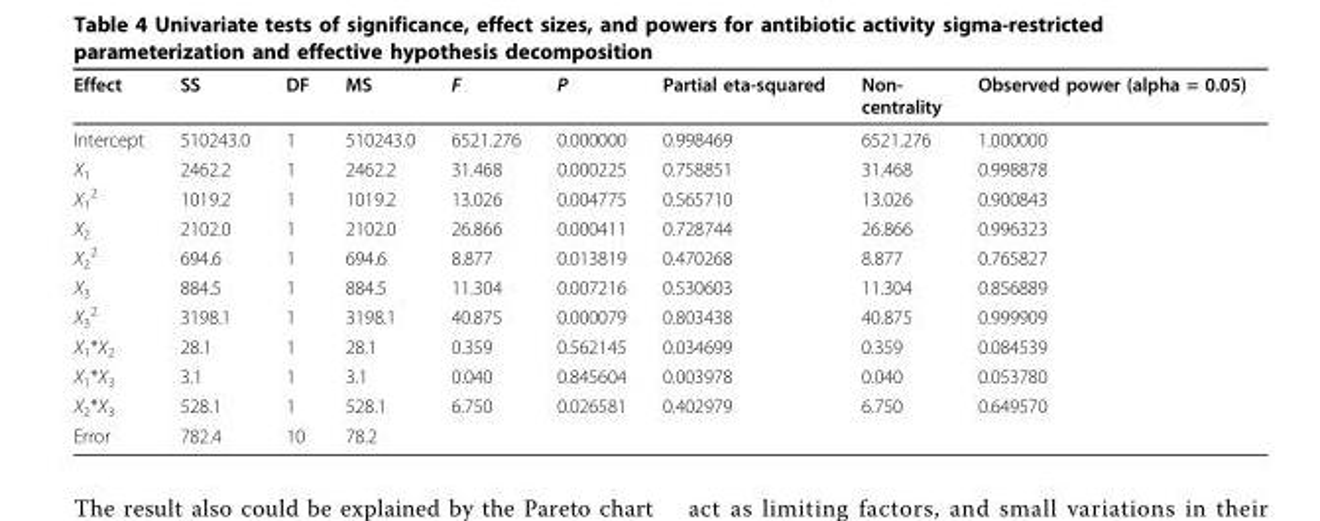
<table><thead><tr><td>Effect</td><td>SS</td><td>DF</td><td>MS</td><td>F</td><td>P</td><td>Partial eta-squared</td><td>Non- centrality</td><td>Observed power (alpha = 0.05)</td></tr></thead><tbody><tr><td>Intercept</td><td>510243.0</td><td>1</td><td>510243.0</td><td>6521.276</td><td>0.000000</td><td>0.998469</td><td>6521.276</td><td>1.000000</td></tr><tr><td>X<sub>1</sub></td><td>2462.2</td><td>1</td><td>2462.2</td><td>31.468</td><td>0.000225</td><td>0.758851</td><td>31.468</td><td>0.998878</td></tr><tr><td>X<sub>1</sub> <sup>2</sup></td><td>1019.2</td><td>1</td><td>1019.2</td><td>13.026</td><td>0.004775</td><td>0.565710</td><td>13.026</td><td>0.900843</td></tr><tr><td>X<sub>2</sub></td><td>2102.0</td><td>1</td><td>2102.0</td><td>26.866</td><td>0.000411</td><td>0.728744</td><td>26.866</td><td>0.996323</td></tr><tr><td>X<sub>2</sub> <sup>2</sup></td><td>694.6</td><td>1</td><td>694.6</td><td>8.877</td><td>0.013819</td><td>0.470268</td><td>8.877</td><td>0.765827</td></tr><tr><td>X<sub>3</sub></td><td>884.5</td><td>1</td><td>884.5</td><td>11.304</td><td>0.007216</td><td>0.530603</td><td>11.304</td><td>0.856889</td></tr><tr><td>X<sub>3</sub> <sup>2</sup></td><td>3198.1</td><td>1</td><td>3198.1</td><td>40.875</td><td>0.000079</td><td>0.803438</td><td>40.875</td><td>0.999909</td></tr><tr><td>X<sub>1</sub>*X<sub>2</sub></td><td>28.1</td><td>1</td><td>28.1</td><td>0.359</td><td>0.562145</td><td>0.034699</td><td>0.359</td><td>0.084539</td></tr><tr><td>X<sub>1</sub>*X<sub>3</sub></td><td>3.1</td><td>1</td><td>3.1</td><td>0.040</td><td>0.845604</td><td>0.003978</td><td>0.040</td><td>0.053780</td></tr><tr><td>X<sub>2</sub>*X<sub>3</sub></td><td>528.1</td><td>1</td><td>528.1</td><td>6.750</td><td>0.026581</td><td>0.402979</td><td>6.750</td><td>0.649570</td></tr><tr><td>Error</td><td>782.4</td><td>10</td><td>78.2</td><td></td><td></td><td></td><td></td><td></td></tr></tbody></table>